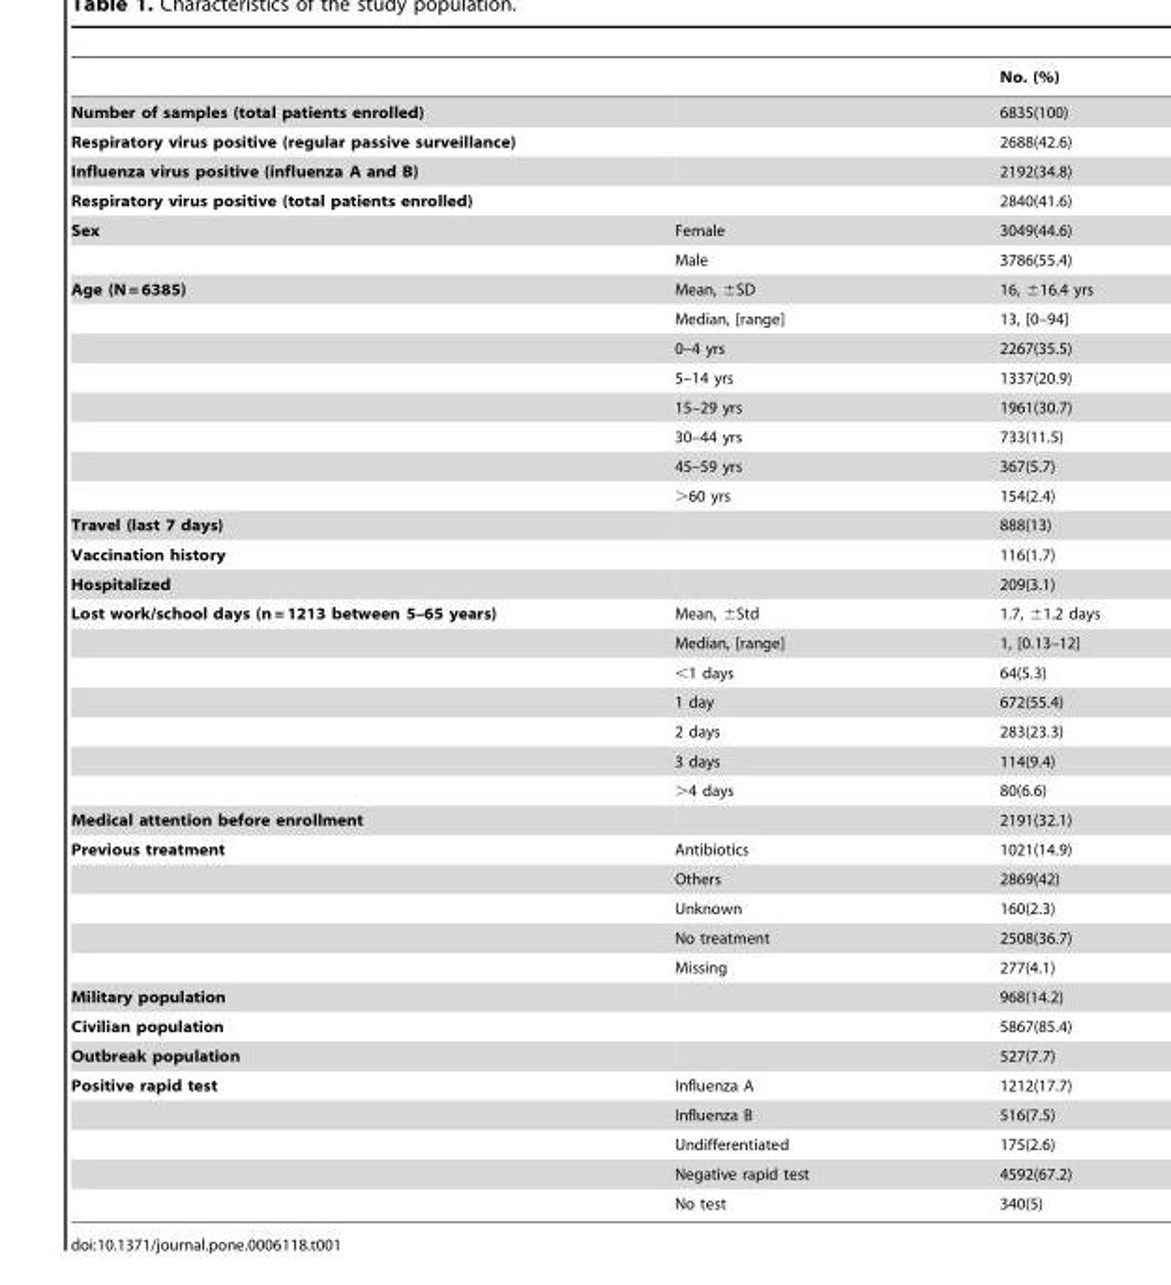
<table><thead><tr><td></td><td></td><td>No. (%)</td></tr></thead><tbody><tr><td>Number of samples (total patients enrolled)</td><td></td><td>6835(100)</td></tr><tr><td>Respiratory virus positive (regular passive surveillance)</td><td></td><td>2688(42.6)</td></tr><tr><td>Influenza virus positive (influenza A and B)</td><td></td><td>2192(34.8)</td></tr><tr><td>Respiratory virus positive (total patients enrolled)</td><td></td><td>2840(41.6)</td></tr><tr><td rowspan="2">Sex</td><td>Female</td><td>3049(44.6)</td></tr><tr><td>Male</td><td>3786(55.4)</td></tr><tr><td rowspan="8">Age (N = 6385)</td><td>Mean, ±SD</td><td>16, ±16.4 yrs</td></tr><tr><td>Median, [range]</td><td>13, [0–94]</td></tr><tr><td>0–4 yrs</td><td>2267(35.5)</td></tr><tr><td>5–14 yrs</td><td>1337(20.9)</td></tr><tr><td>15–29 yrs</td><td>1961(30.7)</td></tr><tr><td>30–44 yrs</td><td>733(11.5)</td></tr><tr><td>45–59 yrs</td><td>367(5.7)</td></tr><tr><td>&gt;60 yrs</td><td>154(2.4)</td></tr><tr><td>Travel (last 7 days)</td><td></td><td>888(13)</td></tr><tr><td>Vaccination history</td><td></td><td>116(1.7)</td></tr><tr><td>Hospitalized</td><td></td><td>209(3.1)</td></tr><tr><td rowspan="7">Lost work/school days (n = 1213 between 5–65 years)</td><td>Mean, ±Std</td><td>1.7, ±1.2 days</td></tr><tr><td>Median, [range]</td><td>1, [0.13–12]</td></tr><tr><td>&lt;1 days</td><td>64(5.3)</td></tr><tr><td>1 day</td><td>672(55.4)</td></tr><tr><td>2 days</td><td>283(23.3)</td></tr><tr><td>3 days</td><td>114(9.4)</td></tr><tr><td>&gt;4 days</td><td>80(6.6)</td></tr><tr><td>Medical attention before enrollment</td><td></td><td>2191(32.1)</td></tr><tr><td rowspan="5">Previous treatment</td><td>Antibiotics</td><td>1021(14.9)</td></tr><tr><td>Others</td><td>2869(42)</td></tr><tr><td>Unknown</td><td>160(2.3)</td></tr><tr><td>No treatment</td><td>2508(36.7)</td></tr><tr><td>Missing</td><td>277(4.1)</td></tr><tr><td>Military population</td><td></td><td>968(14.2)</td></tr><tr><td>Civilian population</td><td></td><td>5867(85.4)</td></tr><tr><td>Outbreak population</td><td></td><td>527(7.7)</td></tr><tr><td rowspan="5">Positive rapid test</td><td>Influenza A</td><td>1212(17.7)</td></tr><tr><td>Influenza B</td><td>516(7.5)</td></tr><tr><td>Undifferentiated</td><td>175(2.6)</td></tr><tr><td>Negative rapid test</td><td>4592(67.2)</td></tr><tr><td>No test</td><td>340(5)</td></tr></tbody></table>